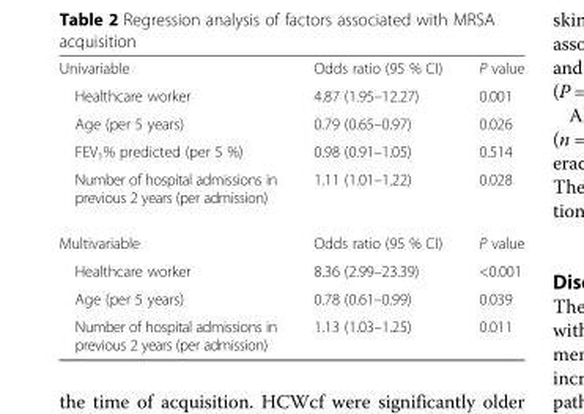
<table><tbody><tr><td>Univariable</td><td>Odds ratio (95 % CI)</td><td>P value</td></tr><tr><td>Healthcare worker</td><td>4.87 (1.95–12.27)</td><td>0.001</td></tr><tr><td>Age (per 5 years)</td><td>0.79 (0.65–0.97)</td><td>0.026</td></tr><tr><td>FEV<sub>1</sub>% predicted (per 5 %)</td><td>0.98 (0.91–1.05)</td><td>0.514</td></tr><tr><td>Number of hospital admissions in previous 2 years (per admission)</td><td>1.11 (1.01–1.22)</td><td>0.028</td></tr><tr><td>Multivariable</td><td>Odds ratio (95 % CI)</td><td>P value</td></tr><tr><td>Healthcare worker</td><td>8.36 (2.99–23.39)</td><td>&lt;0.001</td></tr><tr><td>Age (per 5 years)</td><td>0.78 (0.61–0.99)</td><td>0.039</td></tr><tr><td>Number of hospital admissions in previous 2 years (per admission)</td><td>1.13 (1.03–1.25)</td><td>0.011</td></tr></tbody></table>